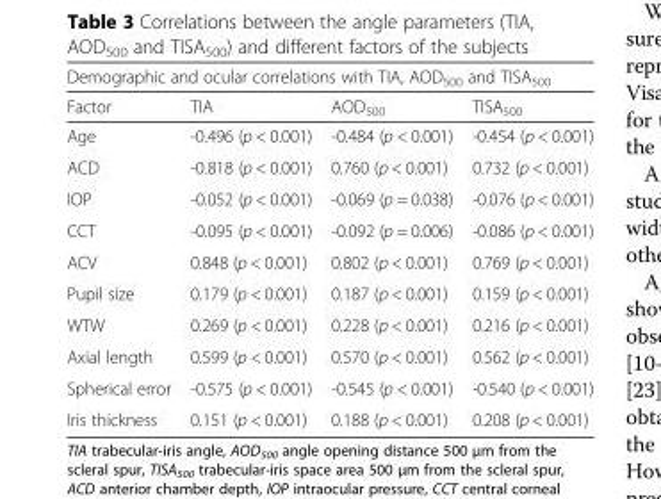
<table><thead><tr><td colspan="4">Demographic and ocular correlations with TIA, AOD<sub>500</sub> and TISA<sub>500</sub></td></tr><tr><td>Factor</td><td>TIA</td><td>AOD<sub>500</sub></td><td>TISA<sub>500</sub></td></tr></thead><tbody><tr><td>Age</td><td>-0.496 (p &lt; 0.001)</td><td>-0.484 (p &lt; 0.001)</td><td>-0.454 (p &lt; 0.001)</td></tr><tr><td>ACD</td><td>-0.818 (p &lt; 0.001)</td><td>0.760 (p &lt; 0.001)</td><td>0.732 (p &lt; 0.001)</td></tr><tr><td>IOP</td><td>-0.052 (p &lt; 0.001)</td><td>-0.069 (p = 0.038)</td><td>-0.076 (p &lt; 0.001)</td></tr><tr><td>CCT</td><td>-0.095 (p &lt; 0.001)</td><td>-0.092 (p = 0.006)</td><td>-0.086 (p &lt; 0.001)</td></tr><tr><td>ACV</td><td>0.848 (p &lt; 0.001)</td><td>0.802 (p &lt; 0.001)</td><td>0.769 (p &lt; 0.001)</td></tr><tr><td>Pupil size</td><td>0.179 (p &lt; 0.001)</td><td>0.187 (p &lt; 0.001)</td><td>0.159 (p &lt; 0.001)</td></tr><tr><td>WTW</td><td>0.269 (p &lt; 0.001)</td><td>0.228 (p &lt; 0.001)</td><td>0.216 (p &lt; 0.001)</td></tr><tr><td>Axial length</td><td>0.599 (p &lt; 0.001)</td><td>0.570 (p &lt; 0.001)</td><td>0.562 (p &lt; 0.001)</td></tr><tr><td>Spherical error</td><td>-0.575 (p &lt; 0.001)</td><td>-0.545 (p &lt; 0.001)</td><td>-0.540 (p &lt; 0.001)</td></tr><tr><td>Iris thickness</td><td>0.151 (p &lt; 0.001)</td><td>0.188 (p &lt; 0.001)</td><td>0.208 (p &lt; 0.001)</td></tr></tbody></table>